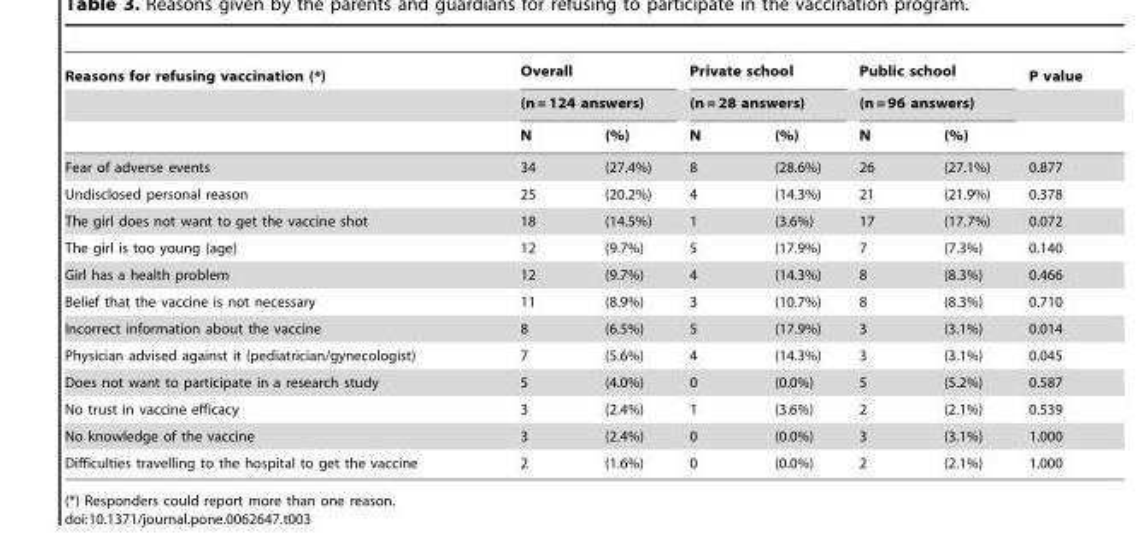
<table><thead><tr><td rowspan="3">Reasons for refusing vaccination (*)</td><td rowspan="2" colspan="2">Overall (n = 124 answers)</td><td rowspan="2" colspan="2">Private school (n = 28 answers)</td><td rowspan="2" colspan="2">Public school (n = 96 answers)</td><td rowspan="3">P value</td></tr><tr></tr><tr><td>N</td><td>(%)</td><td>N</td><td>(%)</td><td>N</td><td>(%)</td></tr></thead><tbody><tr><td>Fear of adverse events</td><td>34</td><td>(27.4%)</td><td>8</td><td>(28.6%)</td><td>26</td><td>(27.1%)</td><td>0.877</td></tr><tr><td>Undisclosed personal reason</td><td>25</td><td>(20.2%)</td><td>4</td><td>(14.3%)</td><td>21</td><td>(21.9%)</td><td>0.378</td></tr><tr><td>The girl does not want to get the vaccine shot</td><td>18</td><td>(14.5%)</td><td>1</td><td>(3.6%)</td><td>17</td><td>(17.7%)</td><td>0.072</td></tr><tr><td>The girl is too young (age)</td><td>12</td><td>(9.7%)</td><td>5</td><td>(17.9%)</td><td>7</td><td>(7.3%)</td><td>0.140</td></tr><tr><td>Girl has a health problem</td><td>12</td><td>(9.7%)</td><td>4</td><td>(14.3%)</td><td>8</td><td>(8.3%)</td><td>0.466</td></tr><tr><td>Belief that the vaccine is not necessary</td><td>11</td><td>(8.9%)</td><td>3</td><td>(10.7%)</td><td>8</td><td>(8.3%)</td><td>0.710</td></tr><tr><td>Incorrect information about the vaccine</td><td>8</td><td>(6.5%)</td><td>5</td><td>(17.9%)</td><td>3</td><td>(3.1%)</td><td>0.014</td></tr><tr><td>Physician advised against it (pediatrician/gynecologist)</td><td>7</td><td>(5.6%)</td><td>4</td><td>(14.3%)</td><td>3</td><td>(3.1%)</td><td>0.045</td></tr><tr><td>Does not want to participate in a research study</td><td>5</td><td>(4.0%)</td><td>0</td><td>(0.0%)</td><td>5</td><td>(5.2%)</td><td>0.587</td></tr><tr><td>No trust in vaccine efficacy</td><td>3</td><td>(2.4%)</td><td>1</td><td>(3.6%)</td><td>2</td><td>(2.1%)</td><td>0.539</td></tr><tr><td>No knowledge of the vaccine</td><td>3</td><td>(2.4%)</td><td>0</td><td>(0.0%)</td><td>3</td><td>(3.1%)</td><td>1.000</td></tr><tr><td>Difficulties travelling to the hospital to get the vaccine</td><td>2</td><td>(1.6%)</td><td>0</td><td>(0.0%)</td><td>2</td><td>(2.1%)</td><td>1.000</td></tr></tbody></table>